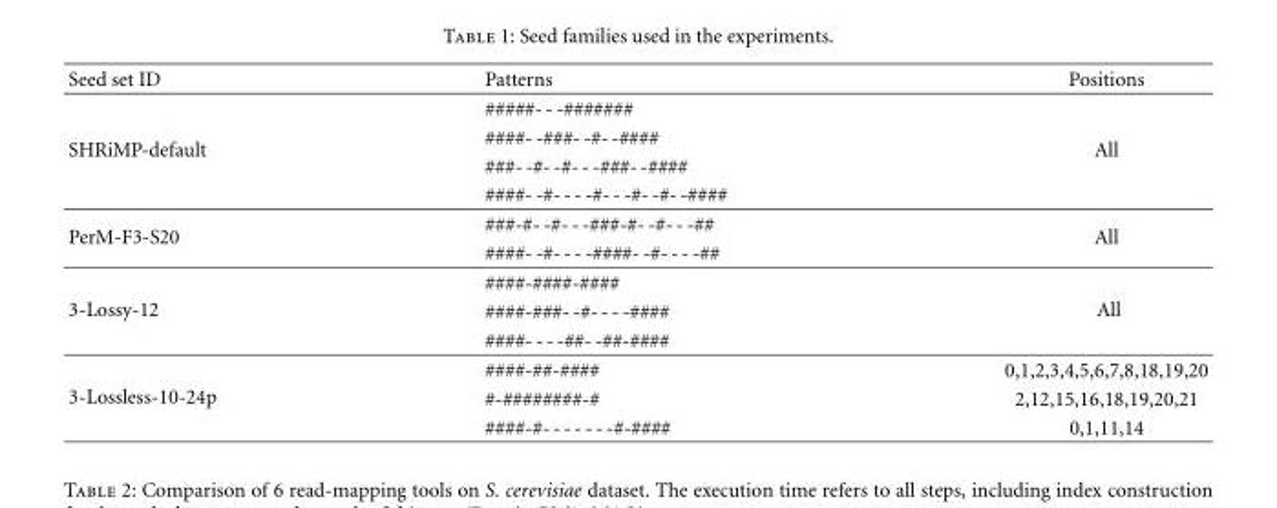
<table><thead><tr><td>Seed set ID</td><td>Patterns</td><td>Positions</td></tr></thead><tbody><tr><td rowspan="4">SHRiMP-default</td><td>#####- --#######</td><td rowspan="4">All</td></tr><tr><td>####- -###- -#--####</td></tr><tr><td>###--#--#---###--####</td></tr><tr><td>####- -#----#---#--#--####</td></tr><tr><td rowspan="2">PerM-F3-S20</td><td>###-#- -#---###-#- -#---##</td><td rowspan="2">All</td></tr><tr><td>####- -#----####- -#----##</td></tr><tr><td rowspan="3">3-Lossy-12</td><td>####-####-####</td><td rowspan="3">All</td></tr><tr><td>####-###- -#----####</td></tr><tr><td>####- ---##--##-####</td></tr><tr><td rowspan="3">3-Lossless-10-24p</td><td>####-##-####</td><td>0,1,2,3,4,5,6,7,8,18,19,20</td></tr><tr><td>#-########-#</td><td>2,12,15,16,18,19,20,21</td></tr><tr><td>####-#-------#-####</td><td>0,1,11,14</td></tr></tbody></table>